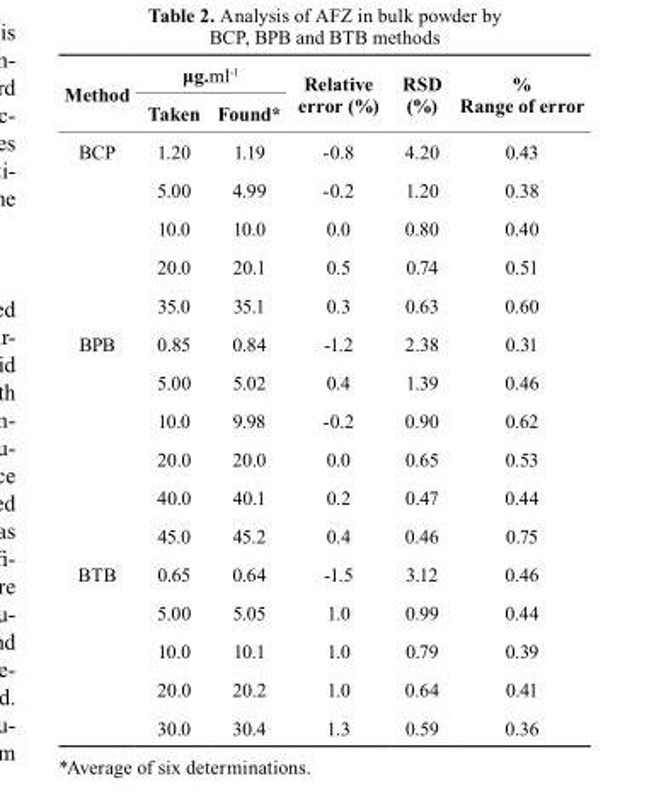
<table><thead><tr><td rowspan="2">method</td><td colspan="2">μg.ml<sup>-1</sup></td><td rowspan="2">relative error (%)</td><td rowspan="2">RSD (%)</td><td rowspan="2">% range of error</td></tr><tr><td>Taken</td><td>Found*</td></tr></thead><tbody><tr><td rowspan="5">BCP</td><td>1.20</td><td>1.19</td><td>-0.8</td><td>4.20</td><td>0.43</td></tr><tr><td>5.00</td><td>4.99</td><td>-0.2</td><td>1.20</td><td>0.38</td></tr><tr><td>10.0</td><td>10.0</td><td>0.0</td><td>0.80</td><td>0.40</td></tr><tr><td>20.0</td><td>20.1</td><td>0.5</td><td>0.74</td><td>0.51</td></tr><tr><td>35.0</td><td>35.1</td><td>0.3</td><td>0.63</td><td>0.60</td></tr><tr><td rowspan="6">BPB</td><td>0.85</td><td>0.84</td><td>-1.2</td><td>2.38</td><td>0.31</td></tr><tr><td>5.00</td><td>5.02</td><td>0.4</td><td>1.39</td><td>0.46</td></tr><tr><td>10.0</td><td>9.98</td><td>-0.2</td><td>0.90</td><td>0.62</td></tr><tr><td>20.0</td><td>20.0</td><td>0.0</td><td>0.65</td><td>0.53</td></tr><tr><td>40.0</td><td>40.1</td><td>0.2</td><td>0.47</td><td>0.44</td></tr><tr><td>45.0</td><td>45.2</td><td>0.4</td><td>0.46</td><td>0.75</td></tr><tr><td rowspan="5">BTB</td><td>0.65</td><td>0.64</td><td>-1.5</td><td>3.12</td><td>0.46</td></tr><tr><td>5.00</td><td>5.05</td><td>1.0</td><td>0.99</td><td>0.44</td></tr><tr><td>10.0</td><td>10.1</td><td>1.0</td><td>0.79</td><td>0.39</td></tr><tr><td>20.0</td><td>20.2</td><td>1.0</td><td>0.64</td><td>0.41</td></tr><tr><td>30.0</td><td>30.4</td><td>1.3</td><td>0.59</td><td>0.36</td></tr></tbody></table>